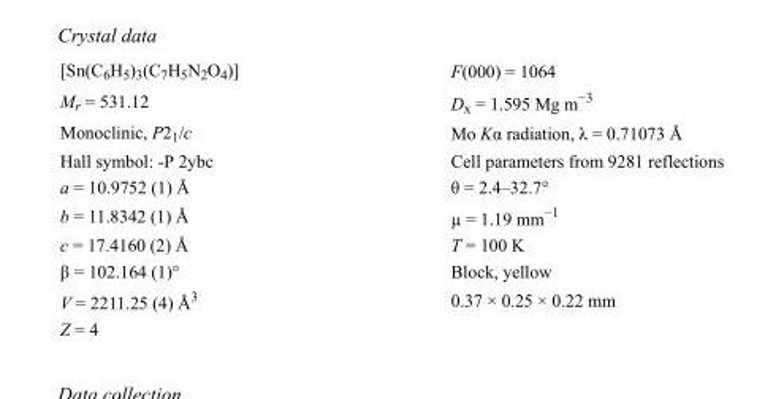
<table><tbody><tr><td>[Sn(C<sub>6</sub>H<sub>5</sub>)<sub>3</sub>(C<sub>7</sub>H<sub>5</sub>N<sub>2</sub>O<sub>4</sub>)]</td><td>F(000) = 1064</td></tr><tr><td>M<sub>r</sub> = 531.12</td><td>D<sub>x</sub> = 1.595 Mg m<sup>−3</sup></td></tr><tr><td>Monoclinic, P2<sub>1</sub>/c</td><td>Mo Kα radiation, λ = 0.71073 Å</td></tr><tr><td>Hall symbol: -P 2ybc</td><td>Cell parameters from 9281 reflections</td></tr><tr><td>a = 10.9752 (1) Å</td><td>θ = 2.4–32.7°</td></tr><tr><td>b = 11.8342 (1) Å</td><td>µ = 1.19 mm<sup>−1</sup></td></tr><tr><td>c = 17.4160 (2) Å</td><td>T = 100 K</td></tr><tr><td>β = 102.164 (1)°</td><td>Block, yellow</td></tr><tr><td>V = 2211.25 (4) Å<sup>3</sup></td><td>0.37 × 0.25 × 0.22 mm</td></tr><tr><td>Z = 4</td><td></td></tr></tbody></table>